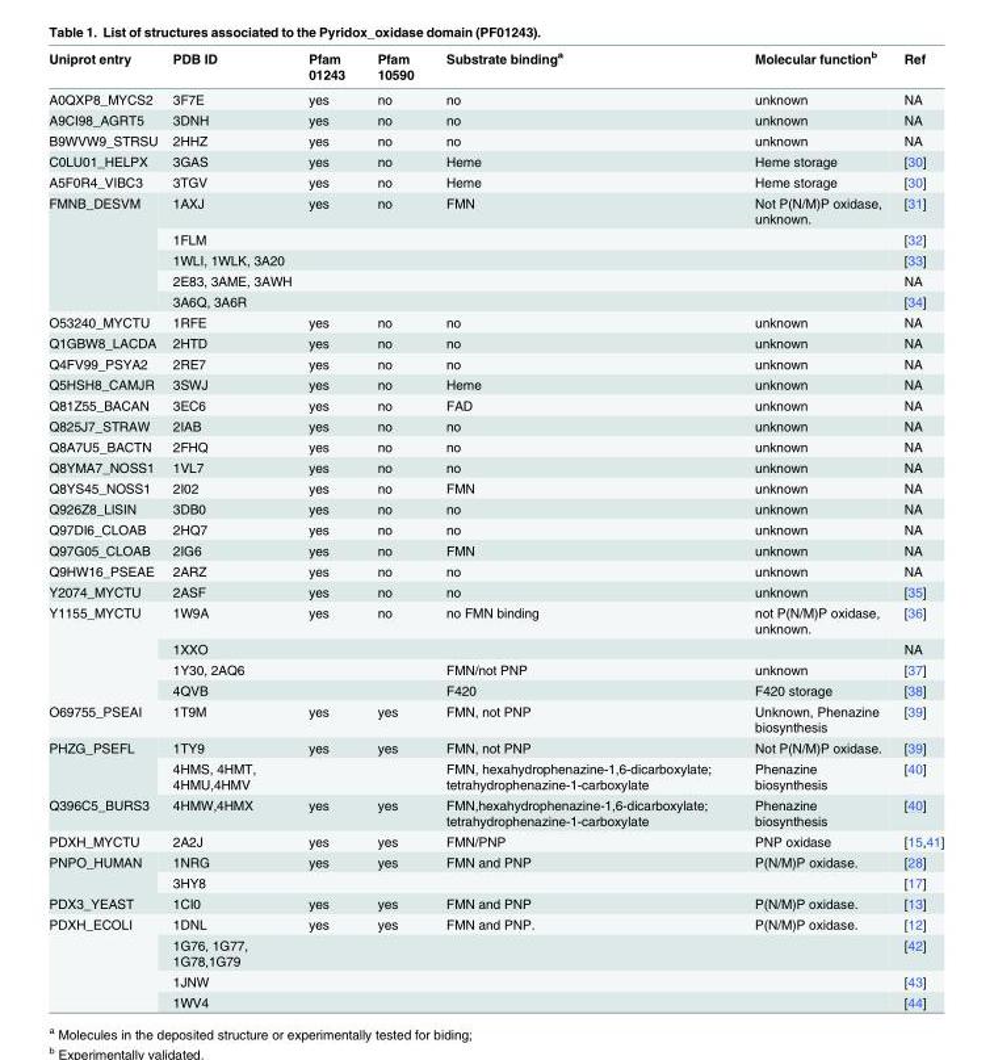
<table><thead><tr><td>Uniprot entry</td><td>PDB ID</td><td>Pfam 01243</td><td>Pfam 10590</td><td>Substrate binding<sup>a</sup></td><td>Molecular function<sup>b</sup></td><td>Ref</td></tr></thead><tbody><tr><td>A0QXP8_MYCS2</td><td>3F7E</td><td>yes</td><td>no</td><td>no</td><td>unknown</td><td>NA</td></tr><tr><td>A9CI98_AGRT5</td><td>3DNH</td><td>yes</td><td>no</td><td>no</td><td>unknown</td><td>NA</td></tr><tr><td>B9WVW9_STRSU</td><td>2HHZ</td><td>yes</td><td>no</td><td>no</td><td>unknown</td><td>NA</td></tr><tr><td>C0LU01_HELPX</td><td>3GAS</td><td>yes</td><td>no</td><td>Heme</td><td>Heme storage</td><td>[30]</td></tr><tr><td>A5F0R4_VIBC3</td><td>3TGV</td><td>yes</td><td>no</td><td>Heme</td><td>Heme storage</td><td>[30]</td></tr><tr><td rowspan="5">FMNB_DESVM</td><td>1AXJ</td><td>yes</td><td>no</td><td>FMN</td><td>Not P(N/M)P oxidase, unknown.</td><td>[31]</td></tr><tr><td>1FLM</td><td></td><td></td><td></td><td></td><td>[32]</td></tr><tr><td>1WLI, 1WLK, 3A20</td><td></td><td></td><td></td><td></td><td>[33]</td></tr><tr><td>2E83, 3AME, 3AWH</td><td></td><td></td><td></td><td></td><td>NA</td></tr><tr><td>3A6Q, 3A6R</td><td></td><td></td><td></td><td></td><td>[34]</td></tr><tr><td>O53240_MYCTU</td><td>1RFE</td><td>yes</td><td>no</td><td>no</td><td>unknown</td><td>NA</td></tr><tr><td>Q1GBW8_LACDA</td><td>2HTD</td><td>yes</td><td>no</td><td>no</td><td>unknown</td><td>NA</td></tr><tr><td>Q4FV99_PSYA2</td><td>2RE7</td><td>yes</td><td>no</td><td>no</td><td>unknown</td><td>NA</td></tr><tr><td>Q5HSH8_CAMJR</td><td>3SWJ</td><td>yes</td><td>no</td><td>Heme</td><td>unknown</td><td>NA</td></tr><tr><td>Q81Z55_BACAN</td><td>3EC6</td><td>yes</td><td>no</td><td>FAD</td><td>unknown</td><td>NA</td></tr><tr><td>Q825J7_STRAW</td><td>2IAB</td><td>yes</td><td>no</td><td>no</td><td>unknown</td><td>NA</td></tr><tr><td>Q8A7U5_BACTN</td><td>2FHQ</td><td>yes</td><td>no</td><td>no</td><td>unknown</td><td>NA</td></tr><tr><td>Q8YMA7_NOSS1</td><td>1VL7</td><td>yes</td><td>no</td><td>no</td><td>unknown</td><td>NA</td></tr><tr><td>Q8YS45_NOSS1</td><td>2I02</td><td>yes</td><td>no</td><td>FMN</td><td>unknown</td><td>NA</td></tr><tr><td>Q926Z8_LISIN</td><td>3DB0</td><td>yes</td><td>no</td><td>no</td><td>unknown</td><td>NA</td></tr><tr><td>Q97DI6_CLOAB</td><td>2HQ7</td><td>yes</td><td>no</td><td>no</td><td>unknown</td><td>NA</td></tr><tr><td>Q97G05_CLOAB</td><td>2IG6</td><td>yes</td><td>no</td><td>FMN</td><td>unknown</td><td>NA</td></tr><tr><td>Q9HW16_PSEAE</td><td>2ARZ</td><td>yes</td><td>no</td><td>no</td><td>unknown</td><td>NA</td></tr><tr><td>Y2074_MYCTU</td><td>2ASF</td><td>yes</td><td>no</td><td>no</td><td>unknown</td><td>[35]</td></tr><tr><td rowspan="4">Y1155_MYCTU</td><td>1W9A</td><td>yes</td><td>no</td><td>no FMN binding</td><td>not P(N/M)P oxidase, unknown.</td><td>[36]</td></tr><tr><td>1XXO</td><td></td><td></td><td></td><td></td><td>NA</td></tr><tr><td>1Y30, 2AQ6</td><td></td><td></td><td>FMN/not PNP</td><td>unknown</td><td>[37]</td></tr><tr><td>4QVB</td><td></td><td></td><td>F420</td><td>F420 storage</td><td>[38]</td></tr><tr><td>O69755_PSEAI</td><td>1T9M</td><td>yes</td><td>yes</td><td>FMN, not PNP</td><td>Unknown, Phenazine biosynthesis</td><td>[39]</td></tr><tr><td rowspan="2">PHZG_PSEFL</td><td>1TY9</td><td>yes</td><td>yes</td><td>FMN, not PNP</td><td>Not P(N/M)P oxidase.</td><td>[39]</td></tr><tr><td>4HMS, 4HMT, 4HMU,4HMV</td><td></td><td></td><td>FMN, hexahydrophenazine-1,6-dicarboxylate; tetrahydrophenazine-1-carboxylate</td><td>Phenazine biosynthesis</td><td>[40]</td></tr><tr><td>Q396C5_BURS3</td><td>4HMW,4HMX</td><td>yes</td><td>yes</td><td>FMN,hexahydrophenazine-1,6-dicarboxylate; tetrahydrophenazine-1-carboxylate</td><td>Phenazine biosynthesis</td><td>[40]</td></tr><tr><td>PDXH_MYCTU</td><td>2A2J</td><td>yes</td><td>yes</td><td>FMN/PNP</td><td>PNP oxidase</td><td>[15,41]</td></tr><tr><td rowspan="2">PNPO_HUMAN</td><td>1NRG</td><td>yes</td><td>yes</td><td>FMN and PNP</td><td>P(N/M)P oxidase.</td><td>[28]</td></tr><tr><td>3HY8</td><td></td><td></td><td></td><td></td><td>[17]</td></tr><tr><td>PDX3_YEAST</td><td>1CI0</td><td>yes</td><td>yes</td><td>FMN and PNP</td><td>P(N/M)P oxidase.</td><td>[13]</td></tr><tr><td rowspan="4">PDXH_ECOLI</td><td>1DNL</td><td>yes</td><td>yes</td><td>FMN and PNP.</td><td>P(N/M)P oxidase.</td><td>[12]</td></tr><tr><td>1G76, 1G77, 1G78,1G79</td><td></td><td></td><td></td><td></td><td>[42]</td></tr><tr><td>1JNW</td><td></td><td></td><td></td><td></td><td>[43]</td></tr><tr><td>1WV4</td><td></td><td></td><td></td><td></td><td>[44]</td></tr></tbody></table>